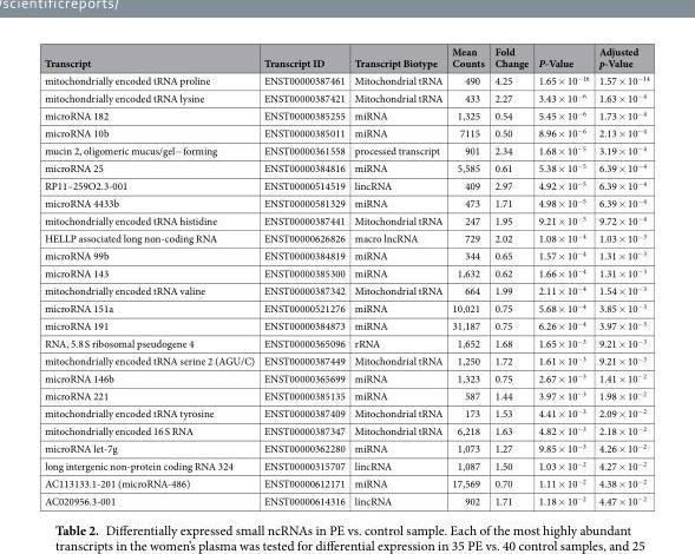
<table><thead><tr><td>Transcript</td><td>Transcript ID</td><td>Transcript Biotype</td><td>Mean Counts</td><td>Fold Change</td><td>P-Value</td><td>Adjusted p-Value</td></tr></thead><tbody><tr><td>mitochondrially encoded tRNA proline</td><td>ENST00000387461</td><td>Mitochondrial tRNA</td><td>490</td><td>4.25</td><td>1.65 × 10<sup>−16</sup></td><td>1.57 × 10<sup>−14</sup></td></tr><tr><td>mitochondrially encoded tRNA lysine</td><td>ENST00000387421</td><td>Mitochondrial tRNA</td><td>433</td><td>2.27</td><td>3.43 × 10<sup>−6</sup></td><td>1.63 × 10<sup>−4</sup></td></tr><tr><td>microRNA 182</td><td>ENST00000385255</td><td>miRNA</td><td>1,325</td><td>0.54</td><td>5.45 × 10<sup>−6</sup></td><td>1.73 × 10<sup>−4</sup></td></tr><tr><td>microRNA 10b</td><td>ENST00000385011</td><td>miRNA</td><td>7115</td><td>0.50</td><td>8.96 × 10<sup>−6</sup></td><td>2.13 × 10<sup>−4</sup></td></tr><tr><td>mucin 2, oligomeric mucus/gel−forming</td><td>ENST00000361558</td><td>processed transcript</td><td>901</td><td>2.34</td><td>1.68 × 10<sup>−5</sup></td><td>3.19 × 10<sup>−4</sup></td></tr><tr><td>microRNA 25</td><td>ENST00000384816</td><td>miRNA</td><td>5,585</td><td>0.61</td><td>5.38 × 10<sup>−5</sup></td><td>6.39 × 10<sup>−4</sup></td></tr><tr><td>RP11–259O2.3-001</td><td>ENST00000514519</td><td>lincRNA</td><td>409</td><td>2.97</td><td>4.92 × 10<sup>−5</sup></td><td>6.39 × 10<sup>−4</sup></td></tr><tr><td>microRNA 4433b</td><td>ENST00000581329</td><td>miRNA</td><td>473</td><td>1.71</td><td>4.98 × 10<sup>−5</sup></td><td>6.39 × 10<sup>−4</sup></td></tr><tr><td>mitochondrially encoded tRNA histidine</td><td>ENST00000387441</td><td>Mitochondrial tRNA</td><td>247</td><td>1.95</td><td>9.21 × 10<sup>−5</sup></td><td>9.72 × 10<sup>−4</sup></td></tr><tr><td>HELLP associated long non-coding RNA</td><td>ENST00000626826</td><td>macro lncRNA</td><td>729</td><td>2.02</td><td>1.08 × 10<sup>−4</sup></td><td>1.03 × 10<sup>−3</sup></td></tr><tr><td>microRNA 99b</td><td>ENST00000384819</td><td>miRNA</td><td>344</td><td>0.65</td><td>1.57 × 10<sup>−4</sup></td><td>1.31 × 10<sup>−3</sup></td></tr><tr><td>microRNA 143</td><td>ENST00000385300</td><td>miRNA</td><td>1,632</td><td>0.62</td><td>1.66 × 10<sup>−4</sup></td><td>1.31 × 10<sup>−3</sup></td></tr><tr><td>mitochondrially encoded tRNA valine</td><td>ENST00000387342</td><td>Mitochondrial tRNA</td><td>664</td><td>1.99</td><td>2.11 × 10<sup>−4</sup></td><td>1.54 × 10<sup>−3</sup></td></tr><tr><td>microRNA 151a</td><td>ENST00000521276</td><td>miRNA</td><td>10,021</td><td>0.75</td><td>5.68 × 10<sup>−4</sup></td><td>3.85 × 10<sup>−3</sup></td></tr><tr><td>microRNA 191</td><td>ENST00000384873</td><td>miRNA</td><td>31,187</td><td>0.75</td><td>6.26 × 10<sup>−4</sup></td><td>3.97 × 10<sup>−3</sup></td></tr><tr><td>RNA, 5.8 S ribosomal pseudogene 4</td><td>ENST00000365096</td><td>rRNA</td><td>1,652</td><td>1.68</td><td>1.65 × 10<sup>−3</sup></td><td>9.21 × 10<sup>−3</sup></td></tr><tr><td>mitochondrially encoded tRNA serine 2 (AGU/C)</td><td>ENST00000387449</td><td>Mitochondrial tRNA</td><td>1,250</td><td>1.72</td><td>1.61 × 10<sup>−3</sup></td><td>9.21 × 10<sup>−3</sup></td></tr><tr><td>microRNA 146b</td><td>ENST00000365699</td><td>miRNA</td><td>1,323</td><td>0.75</td><td>2.67 × 10<sup>−3</sup></td><td>1.41 × 10<sup>−2</sup></td></tr><tr><td>microRNA 221</td><td>ENST00000385135</td><td>miRNA</td><td>587</td><td>1.44</td><td>3.97 × 10<sup>−3</sup></td><td>1.98 × 10<sup>−2</sup></td></tr><tr><td>mitochondrially encoded tRNA tyrosine</td><td>ENST00000387409</td><td>Mitochondrial tRNA</td><td>173</td><td>1.53</td><td>4.41 × 10<sup>−3</sup></td><td>2.09 × 10<sup>−2</sup></td></tr><tr><td>mitochondrially encoded 16 S RNA</td><td>ENST00000387347</td><td>Mitochondrial tRNA</td><td>6,218</td><td>1.63</td><td>4.82 × 10<sup>−3</sup></td><td>2.18 × 10<sup>−2</sup></td></tr><tr><td>microRNA let-7g</td><td>ENST00000362280</td><td>miRNA</td><td>1,073</td><td>1.27</td><td>9.85 × 10<sup>−3</sup></td><td>4.26 × 10<sup>−2</sup></td></tr><tr><td>long intergenic non-protein coding RNA 324</td><td>ENST00000315707</td><td>lincRNA</td><td>1,087</td><td>1.50</td><td>1.03 × 10<sup>−2</sup></td><td>4.27 × 10<sup>−2</sup></td></tr><tr><td>AC113133.1-201 (microRNA-486)</td><td>ENST00000612171</td><td>miRNA</td><td>17,569</td><td>0.70</td><td>1.11 × 10<sup>−2</sup></td><td>4.38 × 10<sup>−2</sup></td></tr><tr><td>AC020956.3-001</td><td>ENST00000614316</td><td>lincRNA</td><td>902</td><td>1.71</td><td>1.18 × 10<sup>−2</sup></td><td>4.47 × 10<sup>−2</sup></td></tr></tbody></table>